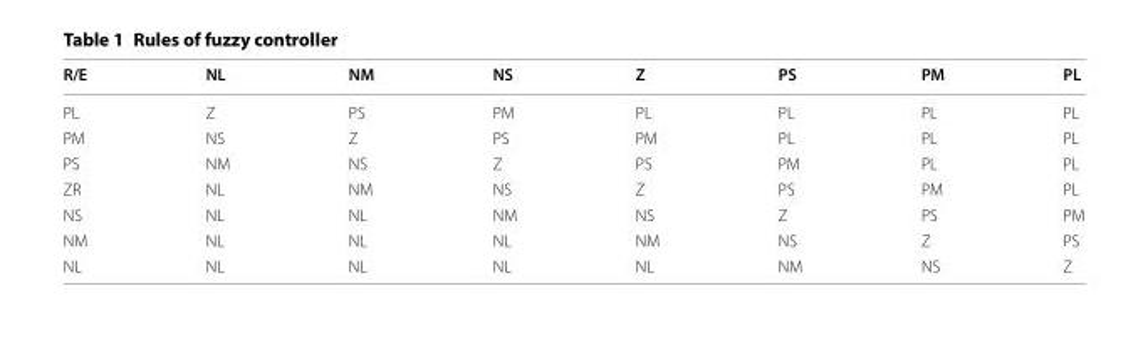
<table><thead><tr><td>R/E</td><td>NL</td><td>NM</td><td>NS</td><td>Z</td><td>PS</td><td>PM</td><td>PL</td></tr></thead><tbody><tr><td>PL</td><td>Z</td><td>PS</td><td>PM</td><td>PL</td><td>PL</td><td>PL</td><td>PL</td></tr><tr><td>PM</td><td>NS</td><td>Z</td><td>PS</td><td>PM</td><td>PL</td><td>PL</td><td>PL</td></tr><tr><td>PS</td><td>NM</td><td>NS</td><td>Z</td><td>PS</td><td>PM</td><td>PL</td><td>PL</td></tr><tr><td>ZR</td><td>NL</td><td>NM</td><td>NS</td><td>Z</td><td>PS</td><td>PM</td><td>PL</td></tr><tr><td>NS</td><td>NL</td><td>NL</td><td>NM</td><td>NS</td><td>Z</td><td>PS</td><td>PM</td></tr><tr><td>NM</td><td>NL</td><td>NL</td><td>NL</td><td>NM</td><td>NS</td><td>Z</td><td>PS</td></tr><tr><td>NL</td><td>NL</td><td>NL</td><td>NL</td><td>NL</td><td>NM</td><td>NS</td><td>Z</td></tr></tbody></table>